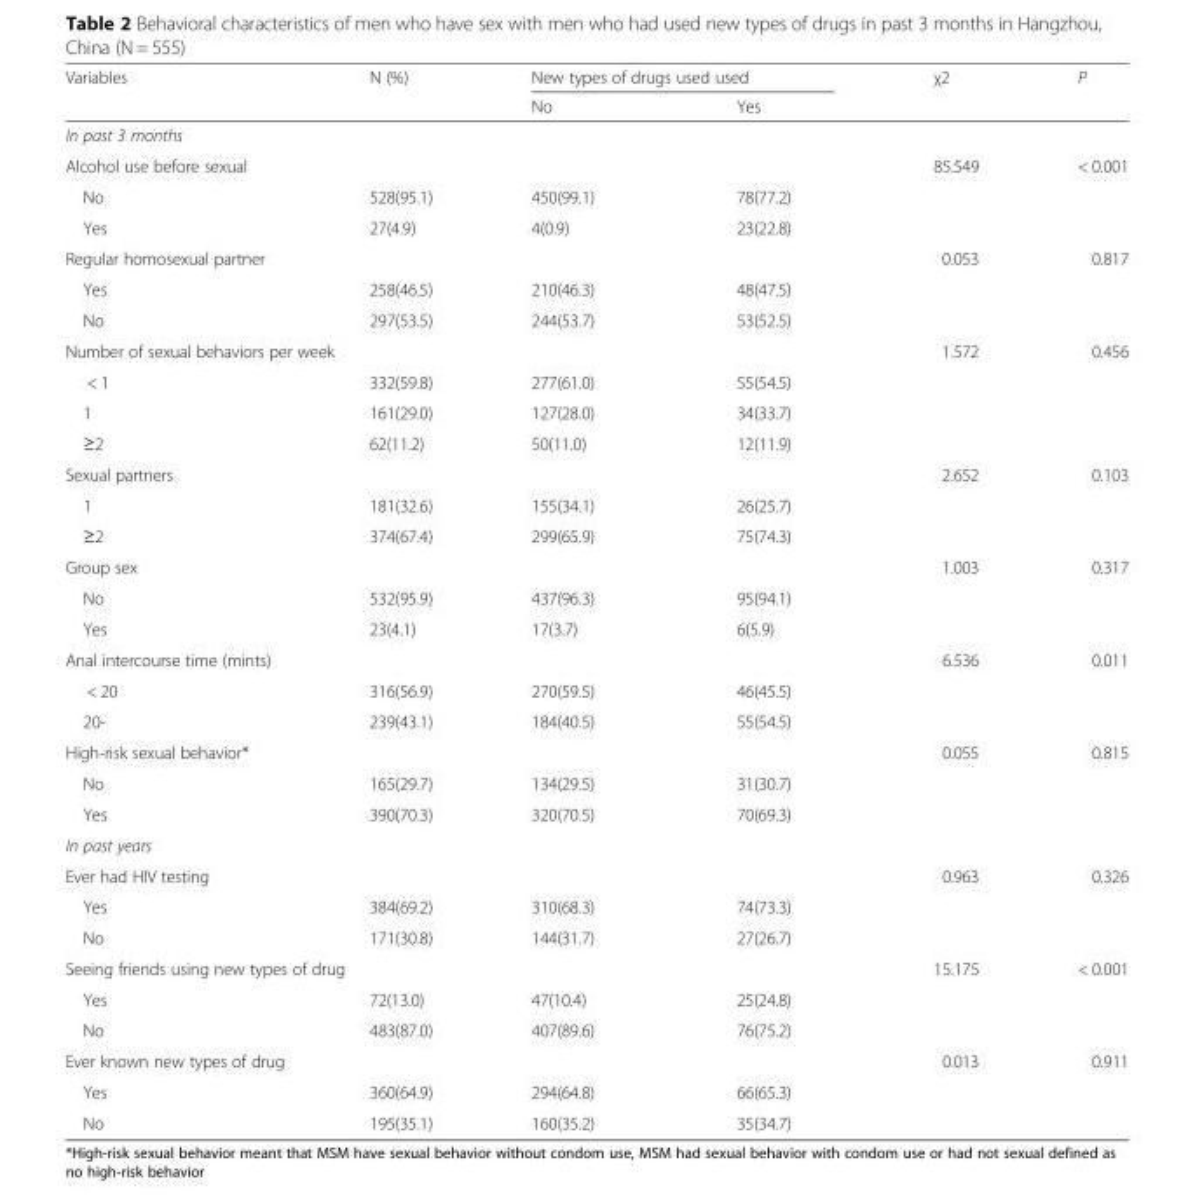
<table><thead><tr><td rowspan="2">Variables</td><td rowspan="2">N (%)</td><td colspan="2">New types of drugs used used</td><td rowspan="2">χ2</td><td rowspan="2">P</td></tr><tr><td>No</td><td>Yes</td></tr></thead><tbody><tr><td colspan="6">In past 3 months</td></tr><tr><td colspan="2">Alcohol use before sexual</td><td></td><td></td><td>85.549</td><td>&lt; 0.001</td></tr><tr><td>No</td><td>528(95.1)</td><td>450(99.1)</td><td>78(77.2)</td><td></td><td></td></tr><tr><td>Yes</td><td>27(4.9)</td><td>4(0.9)</td><td>23(22.8)</td><td></td><td></td></tr><tr><td>Regular homosexual partner</td><td></td><td></td><td></td><td>0.053</td><td>0.817</td></tr><tr><td>Yes</td><td>258(46.5)</td><td>210(46.3)</td><td>48(47.5)</td><td></td><td></td></tr><tr><td>No</td><td>297(53.5)</td><td>244(53.7)</td><td>53(52.5)</td><td></td><td></td></tr><tr><td colspan="2">Number of sexual behaviors per week</td><td></td><td></td><td>1.572</td><td>0.456</td></tr><tr><td>&lt; 1</td><td>332(59.8)</td><td>277(61.0)</td><td>55(54.5)</td><td></td><td></td></tr><tr><td>1</td><td>161(29.0)</td><td>127(28.0)</td><td>34(33.7)</td><td></td><td></td></tr><tr><td>≥2</td><td>62(11.2)</td><td>50(11.0)</td><td>12(11.9)</td><td></td><td></td></tr><tr><td>Sexual partners</td><td></td><td></td><td></td><td>2.652</td><td>0.103</td></tr><tr><td>1</td><td>181(32.6)</td><td>155(34.1)</td><td>26(25.7)</td><td></td><td></td></tr><tr><td>≥2</td><td>374(67.4)</td><td>299(65.9)</td><td>75(74.3)</td><td></td><td></td></tr><tr><td>Group sex</td><td></td><td></td><td></td><td>1.003</td><td>0.317</td></tr><tr><td>No</td><td>532(95.9)</td><td>437(96.3)</td><td>95(94.1)</td><td></td><td></td></tr><tr><td>Yes</td><td>23(4.1)</td><td>17(3.7)</td><td>6(5.9)</td><td></td><td></td></tr><tr><td>Anal intercourse time (mints)</td><td></td><td></td><td></td><td>6.536</td><td>0.011</td></tr><tr><td>&lt; 20</td><td>316(56.9)</td><td>270(59.5)</td><td>46(45.5)</td><td></td><td></td></tr><tr><td>20-</td><td>239(43.1)</td><td>184(40.5)</td><td>55(54.5)</td><td></td><td></td></tr><tr><td>High-risk sexual behavior*</td><td></td><td></td><td></td><td>0.055</td><td>0.815</td></tr><tr><td>No</td><td>165(29.7)</td><td>134(29.5)</td><td>31(30.7)</td><td></td><td></td></tr><tr><td>Yes</td><td>390(70.3)</td><td>320(70.5)</td><td>70(69.3)</td><td></td><td></td></tr><tr><td colspan="6">In past years</td></tr><tr><td>Ever had HIV testing</td><td></td><td></td><td></td><td>0.963</td><td>0.326</td></tr><tr><td>Yes</td><td>384(69.2)</td><td>310(68.3)</td><td>74(73.3)</td><td></td><td></td></tr><tr><td>No</td><td>171(30.8)</td><td>144(31.7)</td><td>27(26.7)</td><td></td><td></td></tr><tr><td colspan="2">Seeing friends using new types of drug</td><td></td><td></td><td>15.175</td><td>&lt; 0.001</td></tr><tr><td>Yes</td><td>72(13.0)</td><td>47(10.4)</td><td>25(24.8)</td><td></td><td></td></tr><tr><td>No</td><td>483(87.0)</td><td>407(89.6)</td><td>76(75.2)</td><td></td><td></td></tr><tr><td colspan="2">Ever known new types of drug</td><td></td><td></td><td>0.013</td><td>0.911</td></tr><tr><td>Yes</td><td>360(64.9)</td><td>294(64.8)</td><td>66(65.3)</td><td></td><td></td></tr><tr><td>No</td><td>195(35.1)</td><td>160(35.2)</td><td>35(34.7)</td><td></td><td></td></tr></tbody></table>